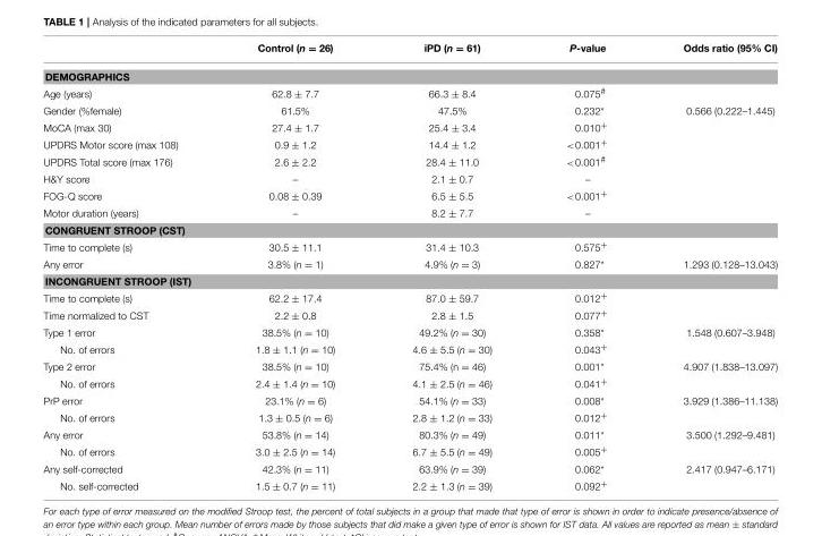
<table><thead><tr><td></td><td>Control (n = 26)</td><td>iPD (n = 61)</td><td>P-value</td><td>Odds ratio (95% CI)</td></tr></thead><tbody><tr><td colspan="5">DEMOGRAPHICS</td></tr><tr><td>Age (years)</td><td>62.8 ± 7.7</td><td>66.3 ± 8.4</td><td>0.075<sup>#</sup></td><td></td></tr><tr><td>Gender (%female)</td><td>61.5%</td><td>47.5%</td><td>0.232*</td><td>0.566 (0.222–1.445)</td></tr><tr><td>MoCA (max 30)</td><td>27.4 ± 1.7</td><td>25.4 ± 3.4</td><td>0.010<sup>+</sup></td><td></td></tr><tr><td>UPDRS Motor score (max 108)</td><td>0.9 ± 1.2</td><td>14.4 ± 1.2</td><td>&lt;0.001<sup>+</sup></td><td></td></tr><tr><td>UPDRS Total score (max 176)</td><td>2.6 ± 2.2</td><td>28.4 ± 11.0</td><td>&lt;0.001<sup>#</sup></td><td></td></tr><tr><td>H&amp;Y score</td><td>–</td><td>2.1 ± 0.7</td><td>–</td><td></td></tr><tr><td>FOG-Q score</td><td>0.08 ± 0.39</td><td>6.5 ± 5.5</td><td>&lt;0.001<sup>+</sup></td><td></td></tr><tr><td>Motor duration (years)</td><td>–</td><td>8.2 ± 7.7</td><td>–</td><td></td></tr><tr><td colspan="5">CONGRUENT STROOP (CST)</td></tr><tr><td>Time to complete (s)</td><td>30.5 ± 11.1</td><td>31.4 ± 10.3</td><td>0.575<sup>+</sup></td><td></td></tr><tr><td>Any error</td><td>3.8% (n = 1)</td><td>4.9% (n = 3)</td><td>0.827*</td><td>1.293 (0.128–13.043)</td></tr><tr><td colspan="5">INCONGRUENT STROOP (IST)</td></tr><tr><td>Time to complete (s)</td><td>62.2 ± 17.4</td><td>87.0 ± 59.7</td><td>0.012<sup>+</sup></td><td></td></tr><tr><td>Time normalized to CST</td><td>2.2 ± 0.8</td><td>2.8 ± 1.5</td><td>0.077<sup>+</sup></td><td></td></tr><tr><td>Type 1 error</td><td>38.5% (n = 10)</td><td>49.2% (n = 30)</td><td>0.358*</td><td>1.548 (0.607–3.948)</td></tr><tr><td>No. of errors</td><td>1.8 ± 1.1 (n = 10)</td><td>4.6 ± 5.5 (n = 30)</td><td>0.043<sup>+</sup></td><td></td></tr><tr><td>Type 2 error</td><td>38.5% (n = 10)</td><td>75.4% (n = 46)</td><td>0.001*</td><td>4.907 (1.838–13.097)</td></tr><tr><td>No. of errors</td><td>2.4 ± 1.4 (n = 10)</td><td>4.1 ± 2.5 (n = 46)</td><td>0.041<sup>+</sup></td><td></td></tr><tr><td>PrP error</td><td>23.1% (n = 6)</td><td>54.1% (n = 33)</td><td>0.008*</td><td>3.929 (1.386–11.138)</td></tr><tr><td>No. of errors</td><td>1.3 ± 0.5 (n = 6)</td><td>2.8 ± 1.2 (n = 33)</td><td>0.012<sup>+</sup></td><td></td></tr><tr><td>Any error</td><td>53.8% (n = 14)</td><td>80.3% (n = 49)</td><td>0.011*</td><td>3.500 (1.292–9.481)</td></tr><tr><td>No. of errors</td><td>3.0 ± 2.5 (n = 14)</td><td>6.7 ± 5.5 (n = 49)</td><td>0.005<sup>+</sup></td><td></td></tr><tr><td>Any self-corrected</td><td>42.3% (n = 11)</td><td>63.9% (n = 39)</td><td>0.062*</td><td>2.417 (0.947–6.171)</td></tr><tr><td>No. self-corrected</td><td>1.5 ± 0.7 (n = 11)</td><td>2.2 ± 1.3 (n = 39)</td><td>0.092<sup>+</sup></td><td></td></tr></tbody></table>